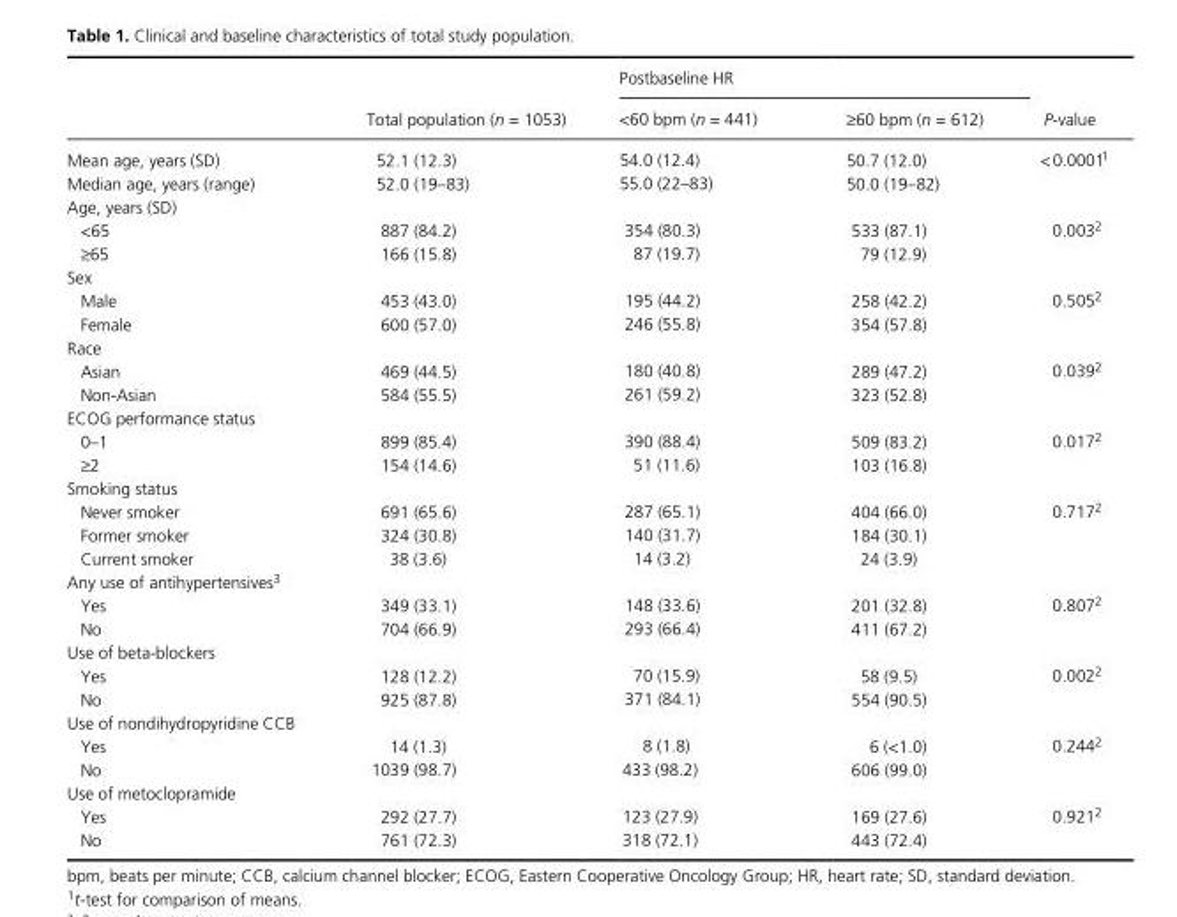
<table><thead><tr><td rowspan="2"></td><td rowspan="2">Total population (n = 1053)</td><td colspan="2">Postbaseline HR</td><td rowspan="2">P- value</td></tr><tr><td>&lt;60 bpm (n = 441)</td><td>≥60 bpm (n = 612)</td></tr></thead><tbody><tr><td>Mean age, years (SD)</td><td>52.1 (12.3)</td><td>54.0 (12.4)</td><td>50.7 (12.0)</td><td rowspan="2">&lt; 0.00011</td></tr><tr><td>Median age, years (range)</td><td>52.0 (19–83)</td><td>55.0 (22–83)</td><td>50.0 (19–82)</td></tr><tr><td colspan="5">Age, years (SD)</td></tr><tr><td>&lt;65</td><td>887 (84.2)</td><td>354 (80.3)</td><td>533 (87.1)</td><td rowspan="2">0.0032</td></tr><tr><td>≥65</td><td>166 (15.8)</td><td>87 (19.7)</td><td>79 (12.9)</td></tr><tr><td colspan="5">Sex</td></tr><tr><td>Male</td><td>453 (43.0)</td><td>195 (44.2)</td><td>258 (42.2)</td><td rowspan="2">0.5052</td></tr><tr><td>Female</td><td>600 (57.0)</td><td>246 (55.8)</td><td>354 (57.8)</td></tr><tr><td colspan="5">Race</td></tr><tr><td>Asian</td><td>469 (44.5)</td><td>180 (40.8)</td><td>289 (47.2)</td><td rowspan="2">0.0392</td></tr><tr><td>Non- Asian</td><td>584 (55.5)</td><td>261 (59.2)</td><td>323 (52.8)</td></tr><tr><td colspan="5">ECOG performance status</td></tr><tr><td>0–1</td><td>899 (85.4)</td><td>390 (88.4)</td><td>509 (83.2)</td><td rowspan="2">0.0172</td></tr><tr><td>≥2</td><td>154 (14.6)</td><td>51 (11.6)</td><td>103 (16.8)</td></tr><tr><td colspan="5">Smoking status</td></tr><tr><td>Never smoker</td><td>691 (65.6)</td><td>287 (65.1)</td><td>404 (66.0)</td><td rowspan="3">0.7172</td></tr><tr><td>Former smoker</td><td>324 (30.8)</td><td>140 (31.7)</td><td>184 (30.1)</td></tr><tr><td>Current smoker</td><td>38 (3.6)</td><td>14 (3.2)</td><td>24 (3.9)</td></tr><tr><td colspan="5">Any use of antihypertensives3</td></tr><tr><td>Yes</td><td>349 (33.1)</td><td>148 (33.6)</td><td>201 (32.8)</td><td rowspan="2">0.8072</td></tr><tr><td>No</td><td>704 (66.9)</td><td>293 (66.4)</td><td>411 (67.2)</td></tr><tr><td colspan="5">Use of beta- blockers</td></tr><tr><td>Yes</td><td>128 (12.2)</td><td>70 (15.9)</td><td>58 (9.5)</td><td rowspan="2">0.0022</td></tr><tr><td>No</td><td>925 (87.8)</td><td>371 (84.1)</td><td>554 (90.5)</td></tr><tr><td colspan="5">Use of nondihydropyridine CCB</td></tr><tr><td>Yes</td><td>14 (1.3)</td><td>8 (1.8)</td><td>6 (&lt;1.0)</td><td rowspan="2">0.2442</td></tr><tr><td>No</td><td>1039 (98.7)</td><td>433 (98.2)</td><td>606 (99.0)</td></tr><tr><td colspan="5">Use of metoclopramide</td></tr><tr><td>Yes</td><td>292 (27.7)</td><td>123 (27.9)</td><td>169 (27.6)</td><td rowspan="2">0.9212</td></tr><tr><td>No</td><td>761 (72.3)</td><td>318 (72.1)</td><td>443 (72.4)</td></tr></tbody></table>